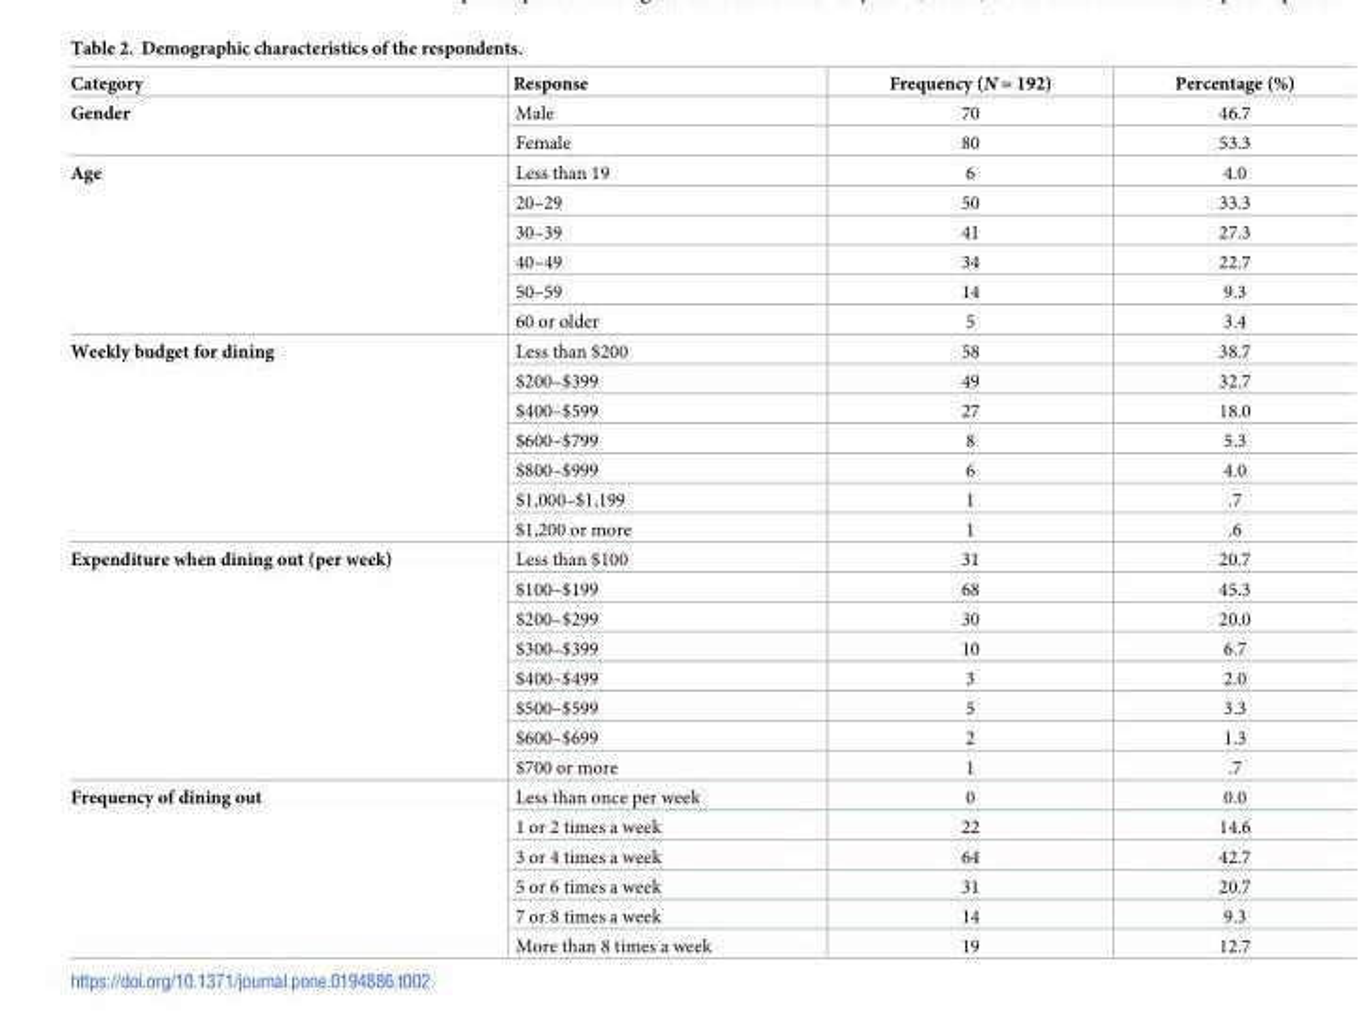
<table><thead><tr><td>Category</td><td>Response</td><td>Frequency (N = 192)</td><td>Percentage (%)</td></tr></thead><tbody><tr><td rowspan="2">Gender</td><td>Male</td><td>70</td><td>46.7</td></tr><tr><td>Female</td><td>80</td><td>53.3</td></tr><tr><td rowspan="6">Age</td><td>Less than 19</td><td>6</td><td>4.0</td></tr><tr><td>20–29</td><td>50</td><td>33.3</td></tr><tr><td>30–39</td><td>41</td><td>27.3</td></tr><tr><td>40–49</td><td>34</td><td>22.7</td></tr><tr><td>50–59</td><td>14</td><td>9.3</td></tr><tr><td>60 or older</td><td>5</td><td>3.4</td></tr><tr><td rowspan="7">Weekly budget for dining</td><td>Less than $200</td><td>58</td><td>38.7</td></tr><tr><td>$200–$399</td><td>49</td><td>32.7</td></tr><tr><td>$400–$599</td><td>27</td><td>18.0</td></tr><tr><td>$600–$799</td><td>8</td><td>5.3</td></tr><tr><td>$800–$999</td><td>6</td><td>4.0</td></tr><tr><td>$1,000–$1,199</td><td>1</td><td>.7</td></tr><tr><td>$1,200 or more</td><td>1</td><td>.6</td></tr><tr><td rowspan="8">Expenditure when dining out (per week)</td><td>Less than $100</td><td>31</td><td>20.7</td></tr><tr><td>$100–$199</td><td>68</td><td>45.3</td></tr><tr><td>$200–$299</td><td>30</td><td>20.0</td></tr><tr><td>$300–$399</td><td>10</td><td>6.7</td></tr><tr><td>$400–$499</td><td>3</td><td>2.0</td></tr><tr><td>$500–$599</td><td>5</td><td>3.3</td></tr><tr><td>$600–$699</td><td>2</td><td>1.3</td></tr><tr><td>$700 or more</td><td>1</td><td>.7</td></tr><tr><td rowspan="6">Frequency of dining out</td><td>Less than once per week</td><td>0</td><td>0.0</td></tr><tr><td>1 or 2 times a week</td><td>22</td><td>14.6</td></tr><tr><td>3 or 4 times a week</td><td>64</td><td>42.7</td></tr><tr><td>5 or 6 times a week</td><td>31</td><td>20.7</td></tr><tr><td>7 or 8 times a week</td><td>14</td><td>9.3</td></tr><tr><td>More than 8 times a week</td><td>19</td><td>12.7</td></tr></tbody></table>